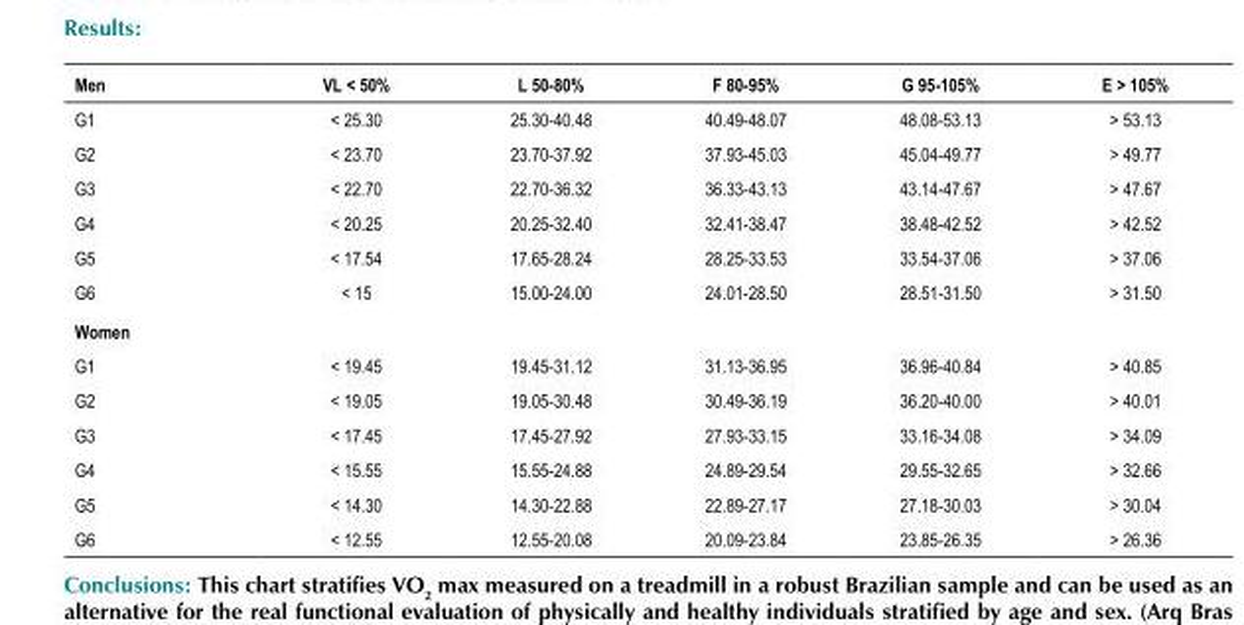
<table><thead><tr><td>Men</td><td>VL &lt; 50%</td><td>L 50-80%</td><td>F 80-95%</td><td>G 95-105%</td><td>E &gt; 105%</td></tr></thead><tbody><tr><td>G1</td><td>&lt; 25.30</td><td>25.30-40.48</td><td>40.49-48.07</td><td>48.08-53.13</td><td>&gt; 53.13</td></tr><tr><td>G2</td><td>&lt; 23.70</td><td>23.70-37.92</td><td>37.93-45.03</td><td>45.04-49.77</td><td>&gt; 49.77</td></tr><tr><td>G3</td><td>&lt; 22.70</td><td>22.70-36.32</td><td>36.33-43.13</td><td>43.14-47.67</td><td>&gt; 47.67</td></tr><tr><td>G4</td><td>&lt; 20.25</td><td>20.25-32.40</td><td>32.41-38.47</td><td>38.48-42.52</td><td>&gt; 42.52</td></tr><tr><td>G5</td><td>&lt; 17.54</td><td>17.65-28.24</td><td>28.25-33.53</td><td>33.54-37.06</td><td>&gt; 37.06</td></tr><tr><td>G6</td><td>&lt; 15</td><td>15.00-24.00</td><td>24.01-28.50</td><td>28.51-31.50</td><td>&gt; 31.50</td></tr><tr><td colspan="6">Women</td></tr><tr><td>G1</td><td>&lt; 19.45</td><td>19.45-31.12</td><td>31.13-36.95</td><td>36.96-40.84</td><td>&gt; 40.85</td></tr><tr><td>G2</td><td>&lt; 19.05</td><td>19.05-30.48</td><td>30.49-36.19</td><td>36.20-40.00</td><td>&gt; 40.01</td></tr><tr><td>G3</td><td>&lt; 17.45</td><td>17.45-27.92</td><td>27.93-33.15</td><td>33.16-34.08</td><td>&gt; 34.09</td></tr><tr><td>G4</td><td>&lt; 15.55</td><td>15.55-24.88</td><td>24.89-29.54</td><td>29.55-32.65</td><td>&gt; 32.66</td></tr><tr><td>G5</td><td>&lt; 14.30</td><td>14.30-22.88</td><td>22.89-27.17</td><td>27.18-30.03</td><td>&gt; 30.04</td></tr><tr><td>G6</td><td>&lt; 12.55</td><td>12.55-20.08</td><td>20.09-23.84</td><td>23.85-26.35</td><td>&gt; 26.36</td></tr></tbody></table>